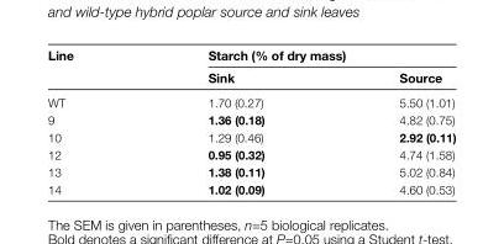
<table><thead><tr><td rowspan="2">Line</td><td colspan="2">Starch (% of dry mass)</td></tr><tr><td>Sink</td><td>Source</td></tr></thead><tbody><tr><td>WT</td><td>1.70 (0.27)</td><td>5.50 (1.01)</td></tr><tr><td>9</td><td>1.36 (0.18)</td><td>4.82 (0.75)</td></tr><tr><td>10</td><td>1.29 (0.46)</td><td>2.92 (0.11)</td></tr><tr><td>12</td><td>0.95 (0.32)</td><td>4.74 (1.58)</td></tr><tr><td>13</td><td>1.38 (0.11)</td><td>5.02 (0.84)</td></tr><tr><td>14</td><td>1.02 (0.09)</td><td>4.60 (0.53)</td></tr></tbody></table>